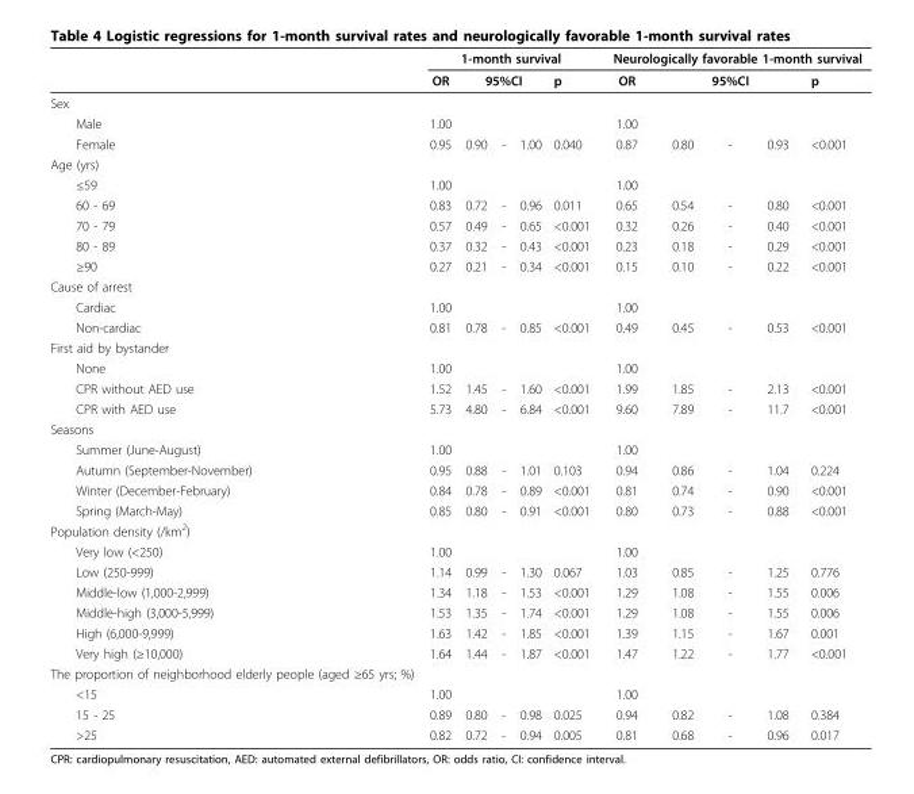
<table><thead><tr><td rowspan="3">Sex</td><td colspan="5">1-month survival</td><td colspan="5">Neurologically favorable 1-month survival</td></tr><tr><td rowspan="2">OR</td><td colspan="3">95%CI</td><td rowspan="2">p</td><td rowspan="2">OR</td><td colspan="3">95%CI</td><td rowspan="2">p</td></tr><tr><td></td><td></td><td></td><td></td><td></td><td></td></tr></thead><tbody><tr><td>Male</td><td>1.00</td><td></td><td></td><td></td><td></td><td>1.00</td><td></td><td></td><td></td><td></td></tr><tr><td>Female</td><td>0.95</td><td>0.90</td><td>-</td><td>1.00</td><td>0.040</td><td>0.87</td><td>0.80</td><td>-</td><td>0.93</td><td>&lt;0.001</td></tr><tr><td colspan="11">Age (yrs)</td></tr><tr><td>≤59</td><td>1.00</td><td></td><td></td><td></td><td></td><td>1.00</td><td></td><td></td><td></td><td></td></tr><tr><td>60 - 69</td><td>0.83</td><td>0.72</td><td>-</td><td>0.96</td><td>0.011</td><td>0.65</td><td>0.54</td><td>-</td><td>0.80</td><td>&lt;0.001</td></tr><tr><td>70 - 79</td><td>0.57</td><td>0.49</td><td>-</td><td>0.65</td><td>&lt;0.001</td><td>0.32</td><td>0.26</td><td>-</td><td>0.40</td><td>&lt;0.001</td></tr><tr><td>80 - 89</td><td>0.37</td><td>0.32</td><td>-</td><td>0.43</td><td>&lt;0.001</td><td>0.23</td><td>0.18</td><td>-</td><td>0.29</td><td>&lt;0.001</td></tr><tr><td>≥90</td><td>0.27</td><td>0.21</td><td>-</td><td>0.34</td><td>&lt;0.001</td><td>0.15</td><td>0.10</td><td>-</td><td>0.22</td><td>&lt;0.001</td></tr><tr><td colspan="11">Cause of arrest</td></tr><tr><td>Cardiac</td><td>1.00</td><td></td><td></td><td></td><td></td><td>1.00</td><td></td><td></td><td></td><td></td></tr><tr><td>Non-cardiac</td><td>0.81</td><td>0.78</td><td>-</td><td>0.85</td><td>&lt;0.001</td><td>0.49</td><td>0.45</td><td>-</td><td>0.53</td><td>&lt;0.001</td></tr><tr><td colspan="11">First aid by bystander</td></tr><tr><td>None</td><td>1.00</td><td></td><td></td><td></td><td></td><td>1.00</td><td></td><td></td><td></td><td></td></tr><tr><td>CPR without AED use</td><td>1.52</td><td>1.45</td><td>-</td><td>1.60</td><td>&lt;0.001</td><td>1.99</td><td>1.85</td><td>-</td><td>2.13</td><td>&lt;0.001</td></tr><tr><td>CPR with AED use</td><td>5.73</td><td>4.80</td><td>-</td><td>6.84</td><td>&lt;0.001</td><td>9.60</td><td>7.89</td><td>-</td><td>11.7</td><td>&lt;0.001</td></tr><tr><td colspan="11">Seasons</td></tr><tr><td>Summer (June-August)</td><td>1.00</td><td></td><td></td><td></td><td></td><td>1.00</td><td></td><td></td><td></td><td></td></tr><tr><td>Autumn (September-November)</td><td>0.95</td><td>0.88</td><td>-</td><td>1.01</td><td>0.103</td><td>0.94</td><td>0.86</td><td>-</td><td>1.04</td><td>0.224</td></tr><tr><td>Winter (December-February)</td><td>0.84</td><td>0.78</td><td>-</td><td>0.89</td><td>&lt;0.001</td><td>0.81</td><td>0.74</td><td>-</td><td>0.90</td><td>&lt;0.001</td></tr><tr><td>Spring (March-May)</td><td>0.85</td><td>0.80</td><td>-</td><td>0.91</td><td>&lt;0.001</td><td>0.80</td><td>0.73</td><td>-</td><td>0.88</td><td>&lt;0.001</td></tr><tr><td colspan="11">Population density (/km<sup>2</sup>)</td></tr><tr><td>Very low (&lt;250)</td><td>1.00</td><td></td><td></td><td></td><td></td><td>1.00</td><td></td><td></td><td></td><td></td></tr><tr><td>Low (250-999)</td><td>1.14</td><td>0.99</td><td>-</td><td>1.30</td><td>0.067</td><td>1.03</td><td>0.85</td><td>-</td><td>1.25</td><td>0.776</td></tr><tr><td>Middle-low (1,000-2,999)</td><td>1.34</td><td>1.18</td><td>-</td><td>1.53</td><td>&lt;0.001</td><td>1.29</td><td>1.08</td><td>-</td><td>1.55</td><td>0.006</td></tr><tr><td>Middle-high (3,000-5,999)</td><td>1.53</td><td>1.35</td><td>-</td><td>1.74</td><td>&lt;0.001</td><td>1.29</td><td>1.08</td><td>-</td><td>1.55</td><td>0.006</td></tr><tr><td>High (6,000-9,999)</td><td>1.63</td><td>1.42</td><td>-</td><td>1.85</td><td>&lt;0.001</td><td>1.39</td><td>1.15</td><td>-</td><td>1.67</td><td>0.001</td></tr><tr><td>Very high (≥10,000)</td><td>1.64</td><td>1.44</td><td>-</td><td>1.87</td><td>&lt;0.001</td><td>1.47</td><td>1.22</td><td>-</td><td>1.77</td><td>&lt;0.001</td></tr><tr><td colspan="11">The proportion of neighborhood elderly people (aged ≥65 yrs; %)</td></tr><tr><td>&lt;15</td><td>1.00</td><td></td><td></td><td></td><td></td><td>1.00</td><td></td><td></td><td></td><td></td></tr><tr><td>15 - 25</td><td>0.89</td><td>0.80</td><td>-</td><td>0.98</td><td>0.025</td><td>0.94</td><td>0.82</td><td>-</td><td>1.08</td><td>0.384</td></tr><tr><td>&gt;25</td><td>0.82</td><td>0.72</td><td>-</td><td>0.94</td><td>0.005</td><td>0.81</td><td>0.68</td><td>-</td><td>0.96</td><td>0.017</td></tr></tbody></table>